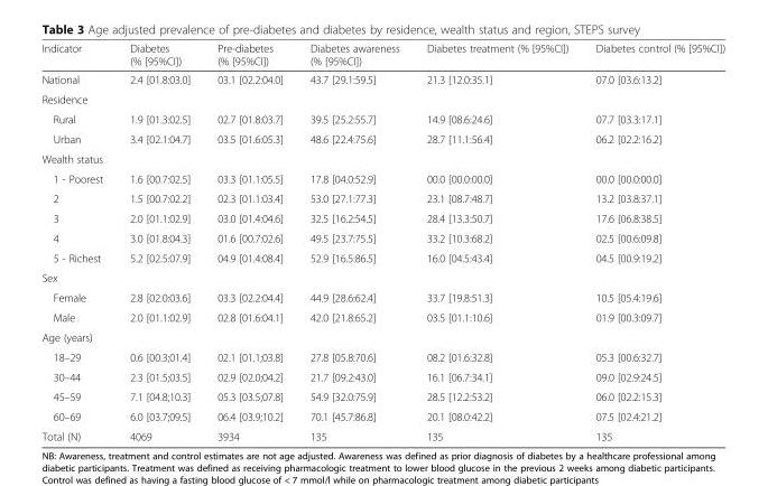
<table><thead><tr><td>Indicator</td><td>Diabetes (% [95%CI])</td><td>Pre-diabetes (% [95%CI])</td><td>Diabetes awareness (% [95%CI])</td><td>Diabetes treatment (% [95%CI])</td><td>Diabetes control (% [95%CI])</td></tr></thead><tbody><tr><td>National</td><td>2.4 [01.8:03.0]</td><td>03.1 [02.2:04.0]</td><td>43.7 [29.1:59.5]</td><td>21.3 [12.0:35.1]</td><td>07.0 [03.6:13.2]</td></tr><tr><td colspan="6">Residence</td></tr><tr><td>Rural</td><td>1.9 [01.3:02.5]</td><td>02.7 [01.8:03.7]</td><td>39.5 [25.2:55.7]</td><td>14.9 [08.6:24.6]</td><td>07.7 [03.3:17.1]</td></tr><tr><td>Urban</td><td>3.4 [02.1:04.7]</td><td>03.5 [01.6:05.3]</td><td>48.6 [22.4:75.6]</td><td>28.7 [11.1:56.4]</td><td>06.2 [02.2:16.2]</td></tr><tr><td colspan="6">Wealth status</td></tr><tr><td>1 - Poorest</td><td>1.6 [00.7:02.5]</td><td>03.3 [01.1:05.5]</td><td>17.8 [04.0:52.9]</td><td>00.0 [00.0:00.0]</td><td>00.0 [00.0:00.0]</td></tr><tr><td>2</td><td>1.5 [00.7:02.2]</td><td>02.3 [01.1:03.4]</td><td>53.0 [27.1:77.3]</td><td>23.1 [08.7:48.7]</td><td>13.2 [03.8:37.1]</td></tr><tr><td>3</td><td>2.0 [01.1:02.9]</td><td>03.0 [01.4:04.6]</td><td>32.5 [16.2:54.5]</td><td>28.4 [13.3:50.7]</td><td>17.6 [06.8:38.5]</td></tr><tr><td>4</td><td>3.0 [01.8:04.3]</td><td>01.6 [00.7:02.6]</td><td>49.5 [23.7:75.5]</td><td>33.2 [10.3:68.2]</td><td>02.5 [00.6:09.8]</td></tr><tr><td>5 - Richest</td><td>5.2 [02.5:07.9]</td><td>04.9 [01.4:08.4]</td><td>52.9 [16.5:86.5]</td><td>16.0 [04.5:43.4]</td><td>04.5 [00.9:19.2]</td></tr><tr><td colspan="6">Sex</td></tr><tr><td>Female</td><td>2.8 [02.0:03.6]</td><td>03.3 [02.2:04.4]</td><td>44.9 [28.6:62.4]</td><td>33.7 [19.8:51.3]</td><td>10.5 [05.4:19.6]</td></tr><tr><td>Male</td><td>2.0 [01.1:02.9]</td><td>02.8 [01.6:04.1]</td><td>42.0 [21.8:65.2]</td><td>03.5 [01.1:10.6]</td><td>01.9 [00.3:09.7]</td></tr><tr><td colspan="6">Age (years)</td></tr><tr><td>18–29</td><td>0.6 [00.3;01.4]</td><td>02.1 [01.1;03.8]</td><td>27.8 [05.8:70.6]</td><td>08.2 [01.6:32.8]</td><td>05.3 [00.6:32.7]</td></tr><tr><td>30–44</td><td>2.3 [01.5;03.5]</td><td>02.9 [02.0;04.2]</td><td>21.7 [09.2:43.0]</td><td>16.1 [06.7:34.1]</td><td>09.0 [02.9:24.5]</td></tr><tr><td>45–59</td><td>7.1 [04.8;10.3]</td><td>05.3 [03.5;07.8]</td><td>54.9 [32.0:75.9]</td><td>28.5 [12.2:53.2]</td><td>06.0 [02.2:15.3]</td></tr><tr><td>60–69</td><td>6.0 [03.7;09.5]</td><td>06.4 [03.9;10.2]</td><td>70.1 [45.7:86.8]</td><td>20.1 [08.0:42.2]</td><td>07.5 [02.4:21.2]</td></tr><tr><td>Total (N)</td><td>4069</td><td>3934</td><td>135</td><td>135</td><td>135</td></tr></tbody></table>